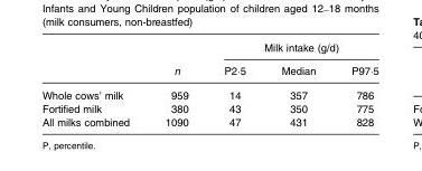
<table><thead><tr><td rowspan="2"></td><td rowspan="2">n</td><td colspan="3">Milk intake (g/d)</td></tr><tr><td>P2·5</td><td>Median</td><td>P97·5</td></tr></thead><tbody><tr><td>Whole cows’ milk</td><td>959</td><td>14</td><td>357</td><td>786</td></tr><tr><td>Fortified milk</td><td>380</td><td>43</td><td>350</td><td>775</td></tr><tr><td>All milks combined</td><td>1090</td><td>47</td><td>431</td><td>828</td></tr></tbody></table>